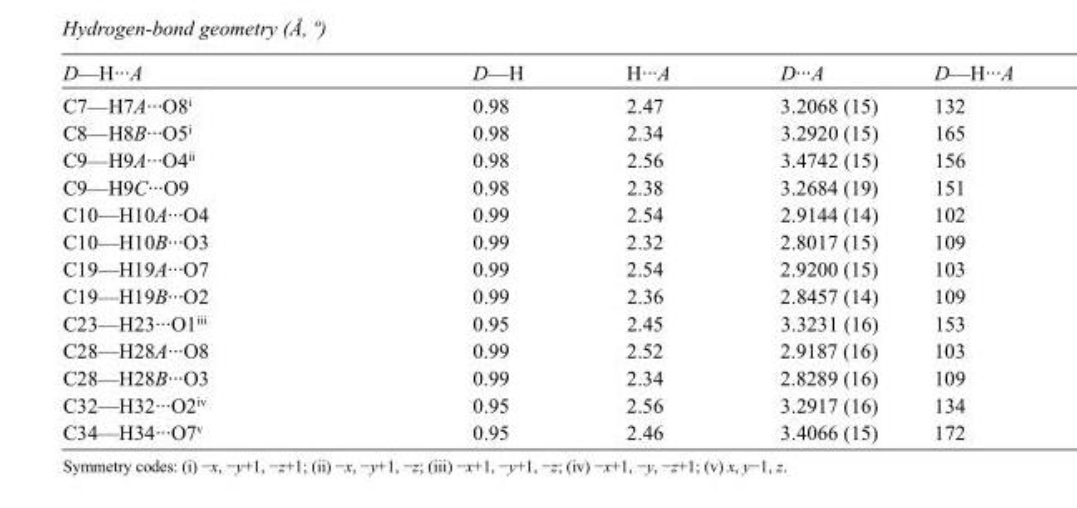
<table><tbody><tr><td>D—H···A</td><td>D—H</td><td>H···A</td><td>D···A</td><td>D—H···A</td></tr><tr><td>C7—H7A···O8<sup>i</sup></td><td>0.98</td><td>2.47</td><td>3.2068 (15)</td><td>132</td></tr><tr><td>C8—H8B···O5<sup>i</sup></td><td>0.98</td><td>2.34</td><td>3.2920 (15)</td><td>165</td></tr><tr><td>C9—H9A···O4<sup>ii</sup></td><td>0.98</td><td>2.56</td><td>3.4742 (15)</td><td>156</td></tr><tr><td>C9—H9C···O9</td><td>0.98</td><td>2.38</td><td>3.2684 (19)</td><td>151</td></tr><tr><td>C10—H10A···O4</td><td>0.99</td><td>2.54</td><td>2.9144 (14)</td><td>102</td></tr><tr><td>C10—H10B···O3</td><td>0.99</td><td>2.32</td><td>2.8017 (15)</td><td>109</td></tr><tr><td>C19—H19A···O7</td><td>0.99</td><td>2.54</td><td>2.9200 (15)</td><td>103</td></tr><tr><td>C19—H19B···O2</td><td>0.99</td><td>2.36</td><td>2.8457 (14)</td><td>109</td></tr><tr><td>C23—H23···O1<sup>iii</sup></td><td>0.95</td><td>2.45</td><td>3.3231 (16)</td><td>153</td></tr><tr><td>C28—H28A···O8</td><td>0.99</td><td>2.52</td><td>2.9187 (16)</td><td>103</td></tr><tr><td>C28—H28B···O3</td><td>0.99</td><td>2.34</td><td>2.8289 (16)</td><td>109</td></tr><tr><td>C32—H32···O2<sup>iv</sup></td><td>0.95</td><td>2.56</td><td>3.2917 (16)</td><td>134</td></tr><tr><td>C34—H34···O7<sup>v</sup></td><td>0.95</td><td>2.46</td><td>3.4066 (15)</td><td>172</td></tr></tbody></table>